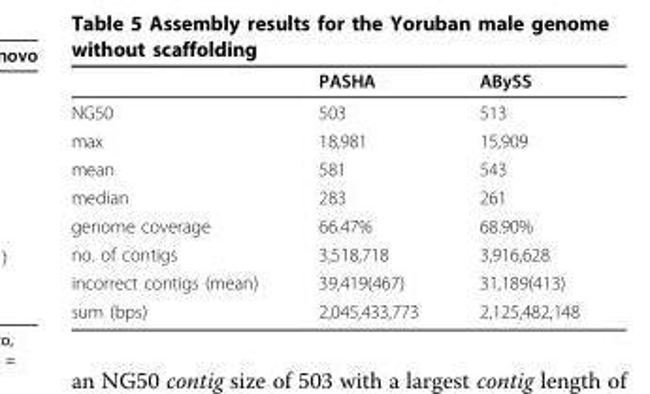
<table><thead><tr><td></td><td>PASHA</td><td>ABySS</td></tr></thead><tbody><tr><td>NG50</td><td>503</td><td>513</td></tr><tr><td>max</td><td>18,981</td><td>15,909</td></tr><tr><td>mean</td><td>581</td><td>543</td></tr><tr><td>median</td><td>283</td><td>261</td></tr><tr><td>genome coverage</td><td>66.47%</td><td>68.90%</td></tr><tr><td>no. of contigs</td><td>3,518,718</td><td>3,916,628</td></tr><tr><td>incorrect contigs (mean)</td><td>39,419(467)</td><td>31,189(413)</td></tr><tr><td>sum (bps)</td><td>2,045,433,773</td><td>2,125,482,148</td></tr></tbody></table>